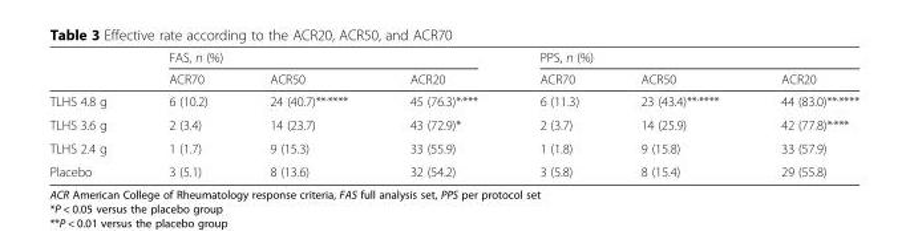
<table><thead><tr><td rowspan="2"></td><td colspan="3">FAS, n (%)</td><td colspan="3">PPS, n (%)</td></tr><tr><td>ACR70</td><td>ACR50</td><td>ACR20</td><td>ACR70</td><td>ACR50</td><td>ACR20</td></tr></thead><tbody><tr><td>TLHS 4.8 g</td><td>6 (10.2)</td><td>24 (40.7)**<sup>,</sup>****</td><td>45 (76.3)*<sup>,</sup>***</td><td>6 (11.3)</td><td>23 (43.4)**<sup>,</sup>****</td><td>44 (83.0)**<sup>,</sup>****</td></tr><tr><td>TLHS 3.6 g</td><td>2 (3.4)</td><td>14 (23.7)</td><td>43 (72.9)*</td><td>2 (3.7)</td><td>14 (25.9)</td><td>42 (77.8)*<sup>,</sup>***</td></tr><tr><td>TLHS 2.4 g</td><td>1 (1.7)</td><td>9 (15.3)</td><td>33 (55.9)</td><td>1 (1.8)</td><td>9 (15.8)</td><td>33 (57.9)</td></tr><tr><td>Placebo</td><td>3 (5.1)</td><td>8 (13.6)</td><td>32 (54.2)</td><td>3 (5.8)</td><td>8 (15.4)</td><td>29 (55.8)</td></tr></tbody></table>